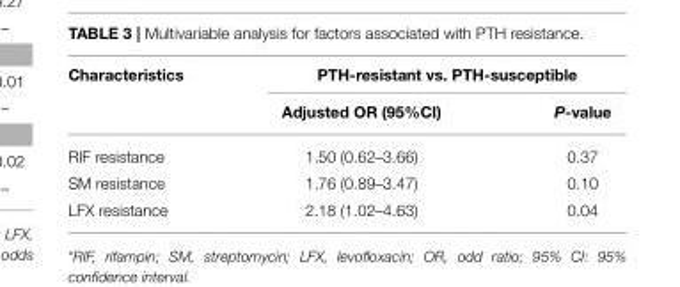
<table><thead><tr><td rowspan="2">Characteristics</td><td colspan="2">PTH-resistant vs. PTH-susceptible</td></tr><tr><td>Adjusted OR (95%CI)</td><td>P-value</td></tr></thead><tbody><tr><td>RIF resistance</td><td>1.50 (0.62–3.66)</td><td>0.37</td></tr><tr><td>SM resistance</td><td>1.76 (0.89–3.47)</td><td>0.10</td></tr><tr><td>LFX resistance</td><td>2.18 (1.02–4.63)</td><td>0.04</td></tr></tbody></table>